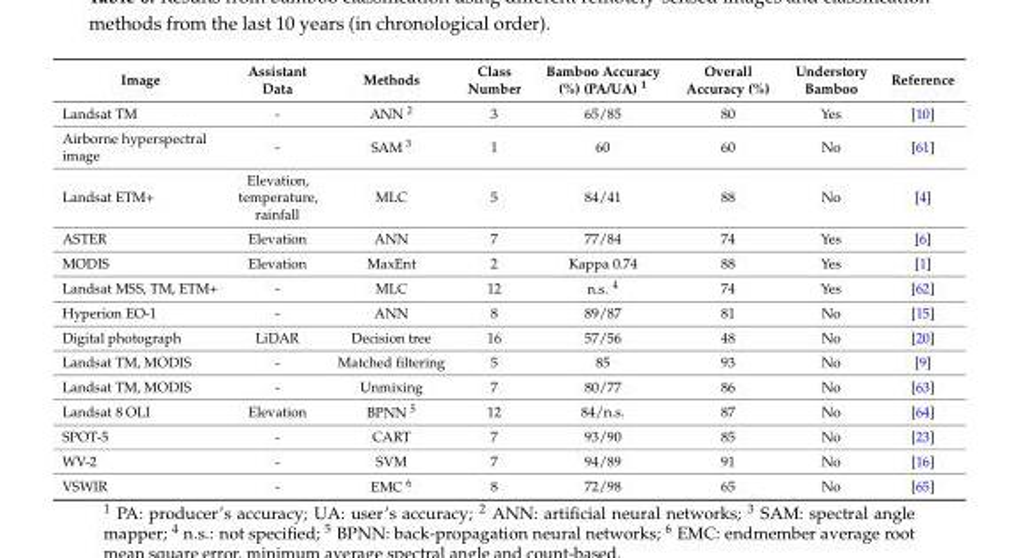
<table><thead><tr><td>Image</td><td>Assistant Data</td><td>Methods</td><td>Class Number</td><td>Bamboo Accuracy (%) (PA/UA) <sup>1</sup></td><td>Overall Accuracy (%)</td><td>Understory Bamboo</td><td>Reference</td></tr></thead><tbody><tr><td>Landsat TM</td><td>-</td><td>ANN <sup>2</sup></td><td>3</td><td>65/85</td><td>80</td><td>Yes</td><td>[10]</td></tr><tr><td>Airborne hyperspectral image</td><td>-</td><td>SAM <sup>3</sup></td><td>1</td><td>60</td><td>60</td><td>No</td><td>[61]</td></tr><tr><td>Landsat ETM+</td><td>Elevation, temperature, rainfall</td><td>MLC</td><td>5</td><td>84/41</td><td>88</td><td>No</td><td>[4]</td></tr><tr><td>ASTER</td><td>Elevation</td><td>ANN</td><td>7</td><td>77/84</td><td>74</td><td>Yes</td><td>[6]</td></tr><tr><td>MODIS</td><td>Elevation</td><td>MaxEnt</td><td>2</td><td>Kappa 0.74</td><td>88</td><td>Yes</td><td>[1]</td></tr><tr><td>Landsat MSS, TM, ETM+</td><td>-</td><td>MLC</td><td>12</td><td>n.s. <sup>4</sup></td><td>74</td><td>Yes</td><td>[62]</td></tr><tr><td>Hyperion EO-1</td><td>-</td><td>ANN</td><td>8</td><td>89/87</td><td>81</td><td>No</td><td>[15]</td></tr><tr><td>Digital photograph</td><td>LiDAR</td><td>Decision tree</td><td>16</td><td>57/56</td><td>48</td><td>No</td><td>[20]</td></tr><tr><td>Landsat TM, MODIS</td><td>-</td><td>Matched filtering</td><td>5</td><td>85</td><td>93</td><td>No</td><td>[9]</td></tr><tr><td>Landsat TM, MODIS</td><td>-</td><td>Unmixing</td><td>7</td><td>80/77</td><td>86</td><td>No</td><td>[63]</td></tr><tr><td>Landsat 8 OLI</td><td>Elevation</td><td>BPNN <sup>5</sup></td><td>12</td><td>84/n.s.</td><td>87</td><td>No</td><td>[64]</td></tr><tr><td>SPOT-5</td><td>-</td><td>CART</td><td>7</td><td>93/90</td><td>85</td><td>No</td><td>[23]</td></tr><tr><td>WV-2</td><td>-</td><td>SVM</td><td>7</td><td>94/89</td><td>91</td><td>No</td><td>[16]</td></tr><tr><td>VSWIR</td><td>-</td><td>EMC <sup>6</sup></td><td>8</td><td>72/98</td><td>65</td><td>No</td><td>[65]</td></tr></tbody></table>